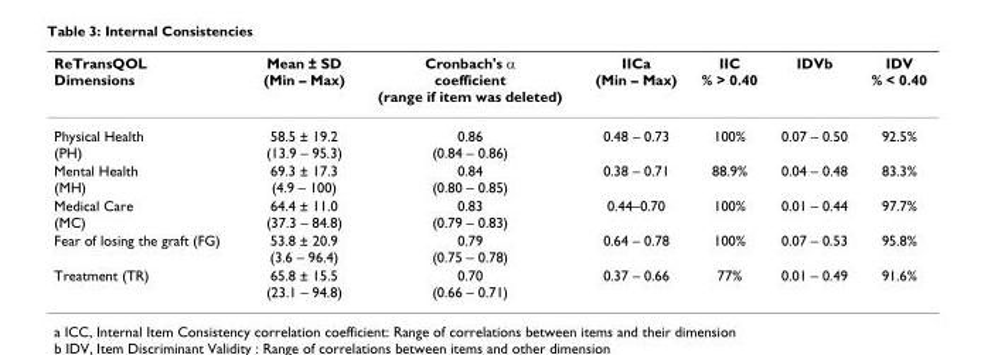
<table><thead><tr><td>ReTransQOL Dimensions</td><td>Mean ± SD (Min – Max)</td><td>Cronbach&#x27;s α coefficient (range if item was deleted)</td><td>IICa (Min – Max)</td><td>IIC % &gt; 0.40</td><td>IDVb</td><td>IDV % &lt; 0.40</td></tr></thead><tbody><tr><td>Physical Health (PH)</td><td>58.5 ± 19.2 (13.9 – 95.3)</td><td>0.86 (0.84 – 0.86)</td><td>0.48 – 0.73</td><td>100%</td><td>0.07 – 0.50</td><td>92.5%</td></tr><tr><td>Mental Health (MH)</td><td>69.3 ± 17.3 (4.9 – 100)</td><td>0.84 (0.80 – 0.85)</td><td>0.38 – 0.71</td><td>88.9%</td><td>0.04 – 0.48</td><td>83.3%</td></tr><tr><td>Medical Care (MC)</td><td>64.4 ± 11.0 (37.3 – 84.8)</td><td>0.83 (0.79 – 0.83)</td><td>0.44–0.70</td><td>100%</td><td>0.01 – 0.44</td><td>97.7%</td></tr><tr><td>Fear of losing the graft (FG)</td><td>53.8 ± 20.9 (3.6 – 96.4)</td><td>0.79 (0.75 – 0.78)</td><td>0.64 – 0.78</td><td>100%</td><td>0.07 – 0.53</td><td>95.8%</td></tr><tr><td>Treatment (TR)</td><td>65.8 ± 15.5 (23.1 – 94.8)</td><td>0.70 (0.66 – 0.71)</td><td>0.37 – 0.66</td><td>77%</td><td>0.01 – 0.49</td><td>91.6%</td></tr></tbody></table>